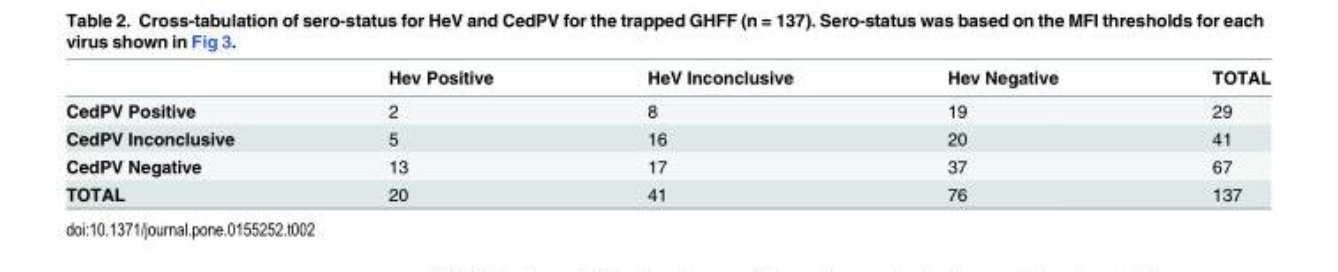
<table><thead><tr><td></td><td>Hev Positive</td><td>HeV Inconclusive</td><td>Hev Negative</td><td>TOTAL</td></tr></thead><tbody><tr><td>CedPV Positive</td><td>2</td><td>8</td><td>19</td><td>29</td></tr><tr><td>CedPV Inconclusive</td><td>5</td><td>16</td><td>20</td><td>41</td></tr><tr><td>CedPV Negative</td><td>13</td><td>17</td><td>37</td><td>67</td></tr><tr><td>TOTAL</td><td>20</td><td>41</td><td>76</td><td>137</td></tr></tbody></table>